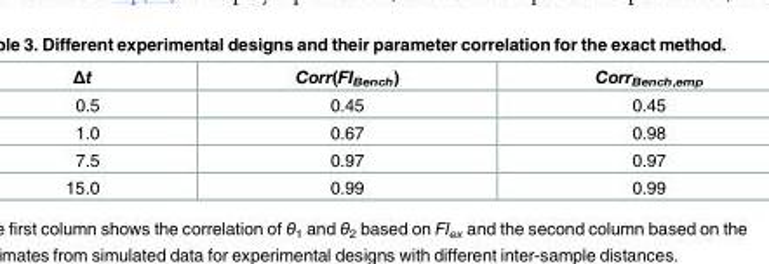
<table><thead><tr><td>Δt</td><td>Corr(FI<sub>Bench</sub>)</td><td>Corr<sub>Bench,emp</sub></td></tr></thead><tbody><tr><td>0.5</td><td>0.45</td><td>0.45</td></tr><tr><td>1.0</td><td>0.67</td><td>0.98</td></tr><tr><td>7.5</td><td>0.97</td><td>0.97</td></tr><tr><td>15.0</td><td>0.99</td><td>0.99</td></tr></tbody></table>